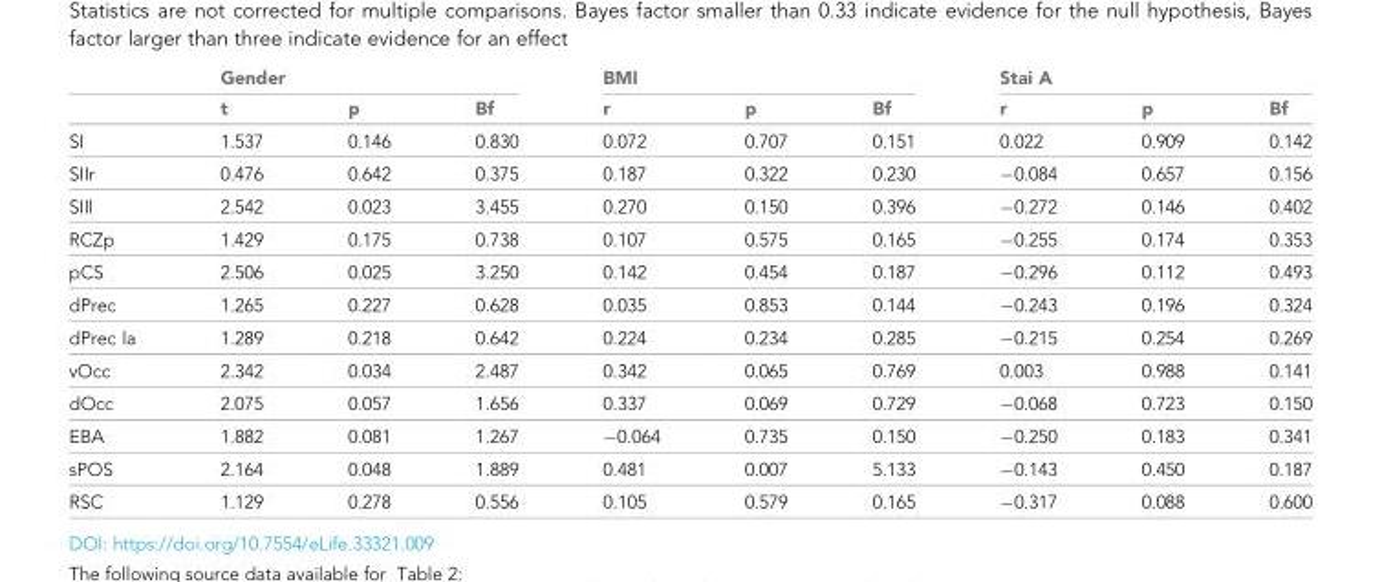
<table><thead><tr><td rowspan="2"></td><td colspan="3">Gender</td><td colspan="3">BMI</td><td colspan="3">Stai A</td></tr><tr><td>t</td><td>p</td><td>Bf</td><td>r</td><td>p</td><td>Bf</td><td>r</td><td>p</td><td>Bf</td></tr></thead><tbody><tr><td>SI</td><td>1.537</td><td>0.146</td><td>0.830</td><td>0.072</td><td>0.707</td><td>0.151</td><td>0.022</td><td>0.909</td><td>0.142</td></tr><tr><td>SIIr</td><td>0.476</td><td>0.642</td><td>0.375</td><td>0.187</td><td>0.322</td><td>0.230</td><td>−0.084</td><td>0.657</td><td>0.156</td></tr><tr><td>SIIl</td><td>2.542</td><td>0.023</td><td>3.455</td><td>0.270</td><td>0.150</td><td>0.396</td><td>−0.272</td><td>0.146</td><td>0.402</td></tr><tr><td>RCZp</td><td>1.429</td><td>0.175</td><td>0.738</td><td>0.107</td><td>0.575</td><td>0.165</td><td>−0.255</td><td>0.174</td><td>0.353</td></tr><tr><td>pCS</td><td>2.506</td><td>0.025</td><td>3.250</td><td>0.142</td><td>0.454</td><td>0.187</td><td>−0.296</td><td>0.112</td><td>0.493</td></tr><tr><td>dPrec</td><td>1.265</td><td>0.227</td><td>0.628</td><td>0.035</td><td>0.853</td><td>0.144</td><td>−0.243</td><td>0.196</td><td>0.324</td></tr><tr><td>dPrec la</td><td>1.289</td><td>0.218</td><td>0.642</td><td>0.224</td><td>0.234</td><td>0.285</td><td>−0.215</td><td>0.254</td><td>0.269</td></tr><tr><td>vOcc</td><td>2.342</td><td>0.034</td><td>2.487</td><td>0.342</td><td>0.065</td><td>0.769</td><td>0.003</td><td>0.988</td><td>0.141</td></tr><tr><td>dOcc</td><td>2.075</td><td>0.057</td><td>1.656</td><td>0.337</td><td>0.069</td><td>0.729</td><td>−0.068</td><td>0.723</td><td>0.150</td></tr><tr><td>EBA</td><td>1.882</td><td>0.081</td><td>1.267</td><td>−0.064</td><td>0.735</td><td>0.150</td><td>−0.250</td><td>0.183</td><td>0.341</td></tr><tr><td>sPOS</td><td>2.164</td><td>0.048</td><td>1.889</td><td>0.481</td><td>0.007</td><td>5.133</td><td>−0.143</td><td>0.450</td><td>0.187</td></tr><tr><td>RSC</td><td>1.129</td><td>0.278</td><td>0.556</td><td>0.105</td><td>0.579</td><td>0.165</td><td>−0.317</td><td>0.088</td><td>0.600</td></tr></tbody></table>